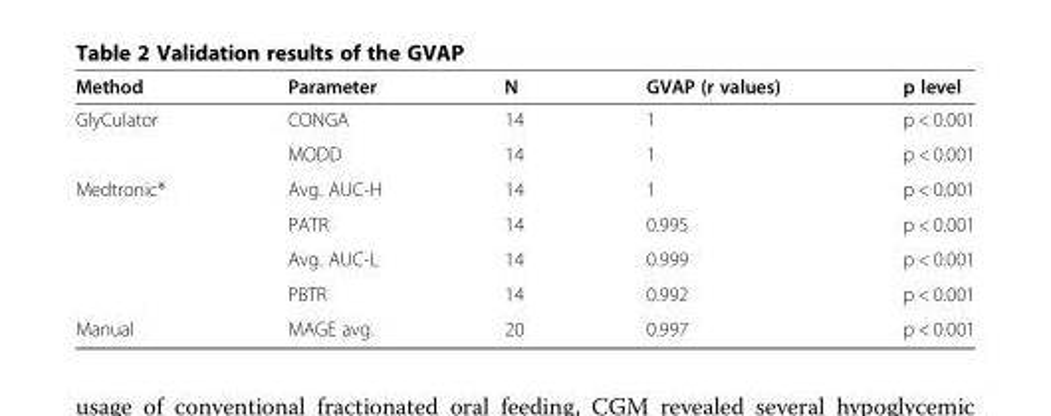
<table><thead><tr><td>Method</td><td>Parameter</td><td>N</td><td>GVAP (r values)</td><td>p level</td></tr></thead><tbody><tr><td rowspan="2">GlyCulator</td><td>CONGA</td><td>14</td><td>1</td><td>p &lt; 0.001</td></tr><tr><td>MODD</td><td>14</td><td>1</td><td>p &lt; 0.001</td></tr><tr><td rowspan="4">Medtronic®</td><td>Avg. AUC-H</td><td>14</td><td>1</td><td>p &lt; 0.001</td></tr><tr><td>PATR</td><td>14</td><td>0.995</td><td>p &lt; 0.001</td></tr><tr><td>Avg. AUC-L</td><td>14</td><td>0.999</td><td>p &lt; 0.001</td></tr><tr><td>PBTR</td><td>14</td><td>0.992</td><td>p &lt; 0.001</td></tr><tr><td>Manual</td><td>MAGE avg.</td><td>20</td><td>0.997</td><td>p &lt; 0.001</td></tr></tbody></table>